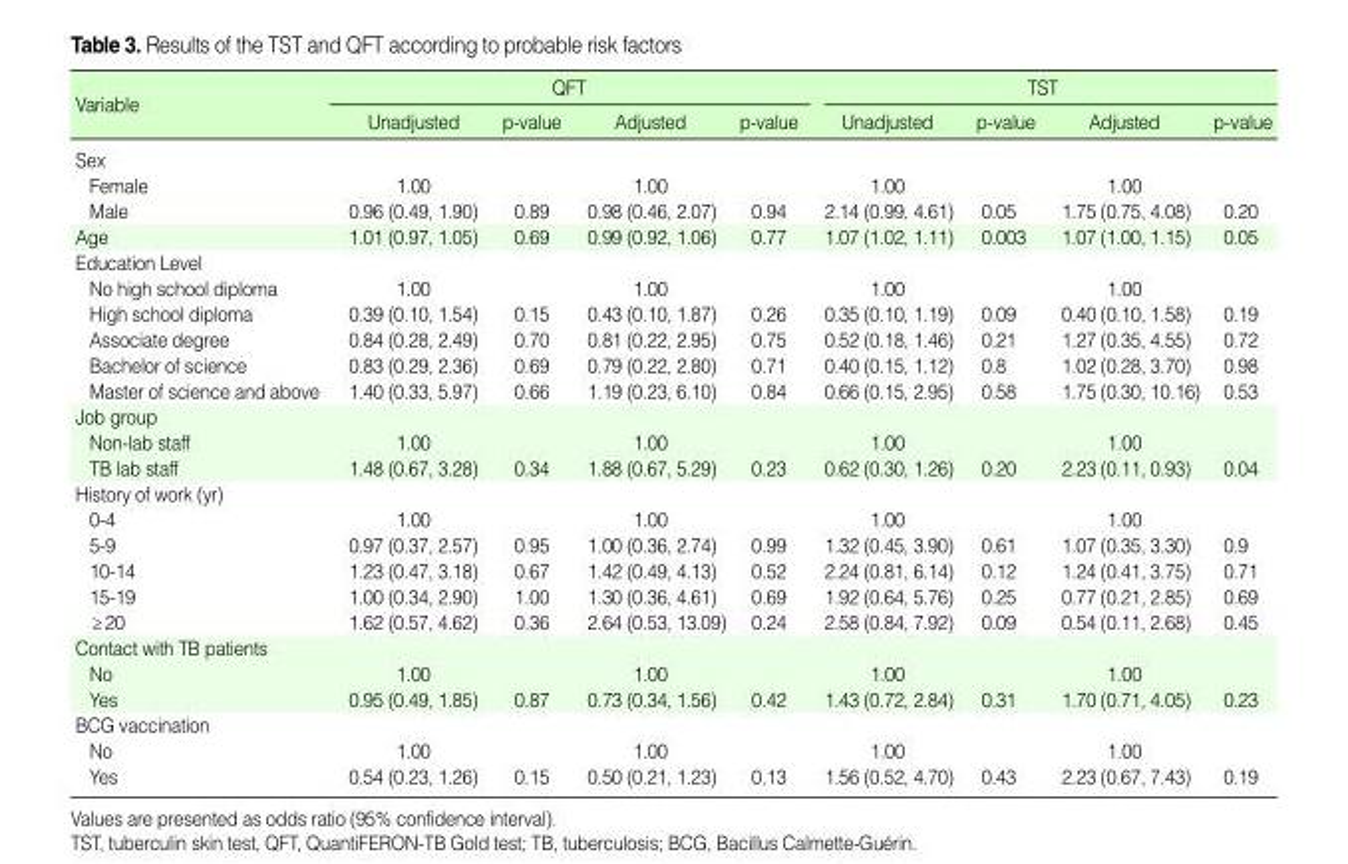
<table><thead><tr><td rowspan="2">Variable</td><td colspan="4">QFT</td><td colspan="4">TST</td></tr><tr><td>Unadjusted</td><td>p-value</td><td>Adjusted</td><td>p-value</td><td>Unadjusted</td><td>p-value</td><td>Adjusted</td><td>p-value</td></tr></thead><tbody><tr><td colspan="9">Sex</td></tr><tr><td>Female</td><td>1.00</td><td></td><td>1.00</td><td></td><td>1.00</td><td></td><td>1.00</td><td></td></tr><tr><td>Male</td><td>0.96 (0.49, 1.90)</td><td>0.89</td><td>0.98 (0.46, 2.07)</td><td>0.94</td><td>2.14 (0.99, 4.61)</td><td>0.05</td><td>1.75 (0.75, 4.08)</td><td>0.20</td></tr><tr><td>Age</td><td>1.01 (0.97, 1.05)</td><td>0.69</td><td>0.99 (0.92, 1.06)</td><td>0.77</td><td>1.07 (1.02, 1.11)</td><td>0.003</td><td>1.07 (1.00, 1.15)</td><td>0.05</td></tr><tr><td colspan="9">Education Level</td></tr><tr><td>No high school diploma</td><td>1.00</td><td></td><td>1.00</td><td></td><td>1.00</td><td></td><td>1.00</td><td></td></tr><tr><td>High school diploma</td><td>0.39 (0.10, 1.54)</td><td>0.15</td><td>0.43 (0.10, 1.87)</td><td>0.26</td><td>0.35 (0.10, 1.19)</td><td>0.09</td><td>0.40 (0.10, 1.58)</td><td>0.19</td></tr><tr><td>Associate degree</td><td>0.84 (0.28, 2.49)</td><td>0.70</td><td>0.81 (0.22, 2.95)</td><td>0.75</td><td>0.52 (0.18, 1.46)</td><td>0.21</td><td>1.27 (0.35, 4.55)</td><td>0.72</td></tr><tr><td>Bachelor of science</td><td>0.83 (0.29, 2.36)</td><td>0.69</td><td>0.79 (0.22, 2.80)</td><td>0.71</td><td>0.40 (0.15, 1.12)</td><td>0.8</td><td>1.02 (0.28, 3.70)</td><td>0.98</td></tr><tr><td>Master of science and above</td><td>1.40 (0.33, 5.97)</td><td>0.66</td><td>1.19 (0.23, 6.10)</td><td>0.84</td><td>0.66 (0.15, 2.95)</td><td>0.58</td><td>1.75 (0.30, 10.16)</td><td>0.53</td></tr><tr><td colspan="9">Job group</td></tr><tr><td>Non-lab staff</td><td>1.00</td><td></td><td>1.00</td><td></td><td>1.00</td><td></td><td>1.00</td><td></td></tr><tr><td>TB lab staff</td><td>1.48 (0.67, 3.28)</td><td>0.34</td><td>1.88 (0.67, 5.29)</td><td>0.23</td><td>0.62 (0.30, 1.26)</td><td>0.20</td><td>2.23 (0.11, 0.93)</td><td>0.04</td></tr><tr><td colspan="9">History of work (yr)</td></tr><tr><td>0-4</td><td>1.00</td><td></td><td>1.00</td><td></td><td>1.00</td><td></td><td>1.00</td><td></td></tr><tr><td>5-9</td><td>0.97 (0.37, 2.57)</td><td>0.95</td><td>1.00 (0.36, 2.74)</td><td>0.99</td><td>1.32 (0.45, 3.90)</td><td>0.61</td><td>1.07 (0.35, 3.30)</td><td>0.9</td></tr><tr><td>10-14</td><td>1.23 (0.47, 3.18)</td><td>0.67</td><td>1.42 (0.49, 4.13)</td><td>0.52</td><td>2.24 (0.81, 6.14)</td><td>0.12</td><td>1.24 (0.41, 3.75)</td><td>0.71</td></tr><tr><td>15-19</td><td>1.00 (0.34, 2.90)</td><td>1.00</td><td>1.30 (0.36, 4.61)</td><td>0.69</td><td>1.92 (0.64, 5.76)</td><td>0.25</td><td>0.77 (0.21, 2.85)</td><td>0.69</td></tr><tr><td>≥20</td><td>1.62 (0.57, 4.62)</td><td>0.36</td><td>2.64 (0.53, 13.09)</td><td>0.24</td><td>2.58 (0.84, 7.92)</td><td>0.09</td><td>0.54 (0.11, 2.68)</td><td>0.45</td></tr><tr><td colspan="9">Contact with TB patients</td></tr><tr><td>No</td><td>1.00</td><td></td><td>1.00</td><td></td><td>1.00</td><td></td><td>1.00</td><td></td></tr><tr><td>Yes</td><td>0.95 (0.49, 1.85)</td><td>0.87</td><td>0.73 (0.34, 1.56)</td><td>0.42</td><td>1.43 (0.72, 2.84)</td><td>0.31</td><td>1.70 (0.71, 4.05)</td><td>0.23</td></tr><tr><td colspan="9">BCG vaccination</td></tr><tr><td>No</td><td>1.00</td><td></td><td>1.00</td><td></td><td>1.00</td><td></td><td>1.00</td><td></td></tr><tr><td>Yes</td><td>0.54 (0.23, 1.26)</td><td>0.15</td><td>0.50 (0.21, 1.23)</td><td>0.13</td><td>1.56 (0.52, 4.70)</td><td>0.43</td><td>2.23 (0.67, 7.43)</td><td>0.19</td></tr></tbody></table>